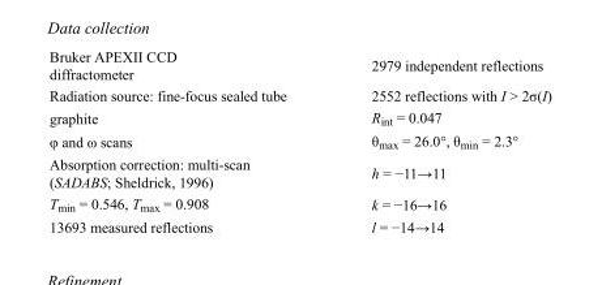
<table><tbody><tr><td>Bruker APEXII CCD diffractometer</td><td>2979 independent reflections</td></tr><tr><td>Radiation source: fine-focus sealed tube</td><td>2552 reflections with I &gt; 2σ(I)</td></tr><tr><td>graphite</td><td>R<sub>int</sub> = 0.047</td></tr><tr><td>φ and ω scans</td><td>θ<sub>max</sub> = 26.0°, θ<sub>min</sub> = 2.3°</td></tr><tr><td>Absorption correction: multi-scan (SADABS; Sheldrick, 1996)</td><td>h = −11→11</td></tr><tr><td>T<sub>min</sub> = 0.546, T<sub>max</sub> = 0.908</td><td>k = −16→16</td></tr><tr><td>13693 measured reflections</td><td>l = −14→14</td></tr></tbody></table>